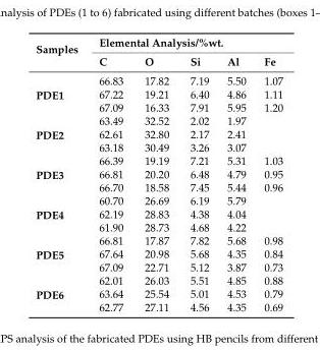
<table><thead><tr><td rowspan="2">Samples</td><td colspan="5">Elemental Analysis/%wt.</td></tr><tr><td>C</td><td>O</td><td>Si</td><td>Al</td><td>Fe</td></tr></thead><tbody><tr><td rowspan="3">PDE1</td><td>66.83</td><td>17.82</td><td>7.19</td><td>5.50</td><td>1.07</td></tr><tr><td>67.22</td><td>19.21</td><td>6.40</td><td>4.86</td><td>1.11</td></tr><tr><td>67.09</td><td>16.33</td><td>7.91</td><td>5.95</td><td>1.20</td></tr><tr><td rowspan="3">PDE2</td><td>63.49</td><td>32.52</td><td>2.02</td><td>1.97</td><td></td></tr><tr><td>62.61</td><td>32.80</td><td>2.17</td><td>2.41</td><td></td></tr><tr><td>63.18</td><td>30.49</td><td>3.26</td><td>3.07</td><td></td></tr><tr><td rowspan="3">PDE3</td><td>66.39</td><td>19.19</td><td>7.21</td><td>5.31</td><td>1.03</td></tr><tr><td>66.81</td><td>20.20</td><td>6.48</td><td>4.79</td><td>0.95</td></tr><tr><td>66.70</td><td>18.58</td><td>7.45</td><td>5.44</td><td>0.96</td></tr><tr><td rowspan="3">PDE4</td><td>60.70</td><td>26.69</td><td>6.19</td><td>5.79</td><td></td></tr><tr><td>62.19</td><td>28.83</td><td>4.38</td><td>4.04</td><td></td></tr><tr><td>61.90</td><td>28.73</td><td>4.68</td><td>4.22</td><td></td></tr><tr><td rowspan="3">PDE5</td><td>66.81</td><td>17.87</td><td>7.82</td><td>5.68</td><td>0.98</td></tr><tr><td>67.64</td><td>20.98</td><td>5.68</td><td>4.35</td><td>0.84</td></tr><tr><td>67.09</td><td>22.71</td><td>5.12</td><td>3.87</td><td>0.73</td></tr><tr><td rowspan="3">PDE6</td><td>62.01</td><td>26.03</td><td>5.51</td><td>4.85</td><td>0.88</td></tr><tr><td>63.64</td><td>25.54</td><td>5.01</td><td>4.53</td><td>0.79</td></tr><tr><td>62.77</td><td>27.11</td><td>4.56</td><td>4.35</td><td>0.69</td></tr></tbody></table>